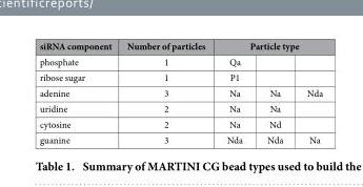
<table><thead><tr><td rowspan="2">siRNA component phosphate</td><td rowspan="2">Number of particles 1</td><td colspan="3">Particle type</td></tr><tr><td>Qa</td><td></td><td></td></tr></thead><tbody><tr><td>ribose sugar</td><td>1</td><td>P1</td><td></td><td></td></tr><tr><td>adenine</td><td>3</td><td>Na</td><td>Na</td><td>Nda</td></tr><tr><td>uridine</td><td>2</td><td>Na</td><td>Na</td><td></td></tr><tr><td>cytosine</td><td>2</td><td>Na</td><td>Nd</td><td></td></tr><tr><td>guanine</td><td>3</td><td>Nda</td><td>Nda</td><td>Na</td></tr></tbody></table>